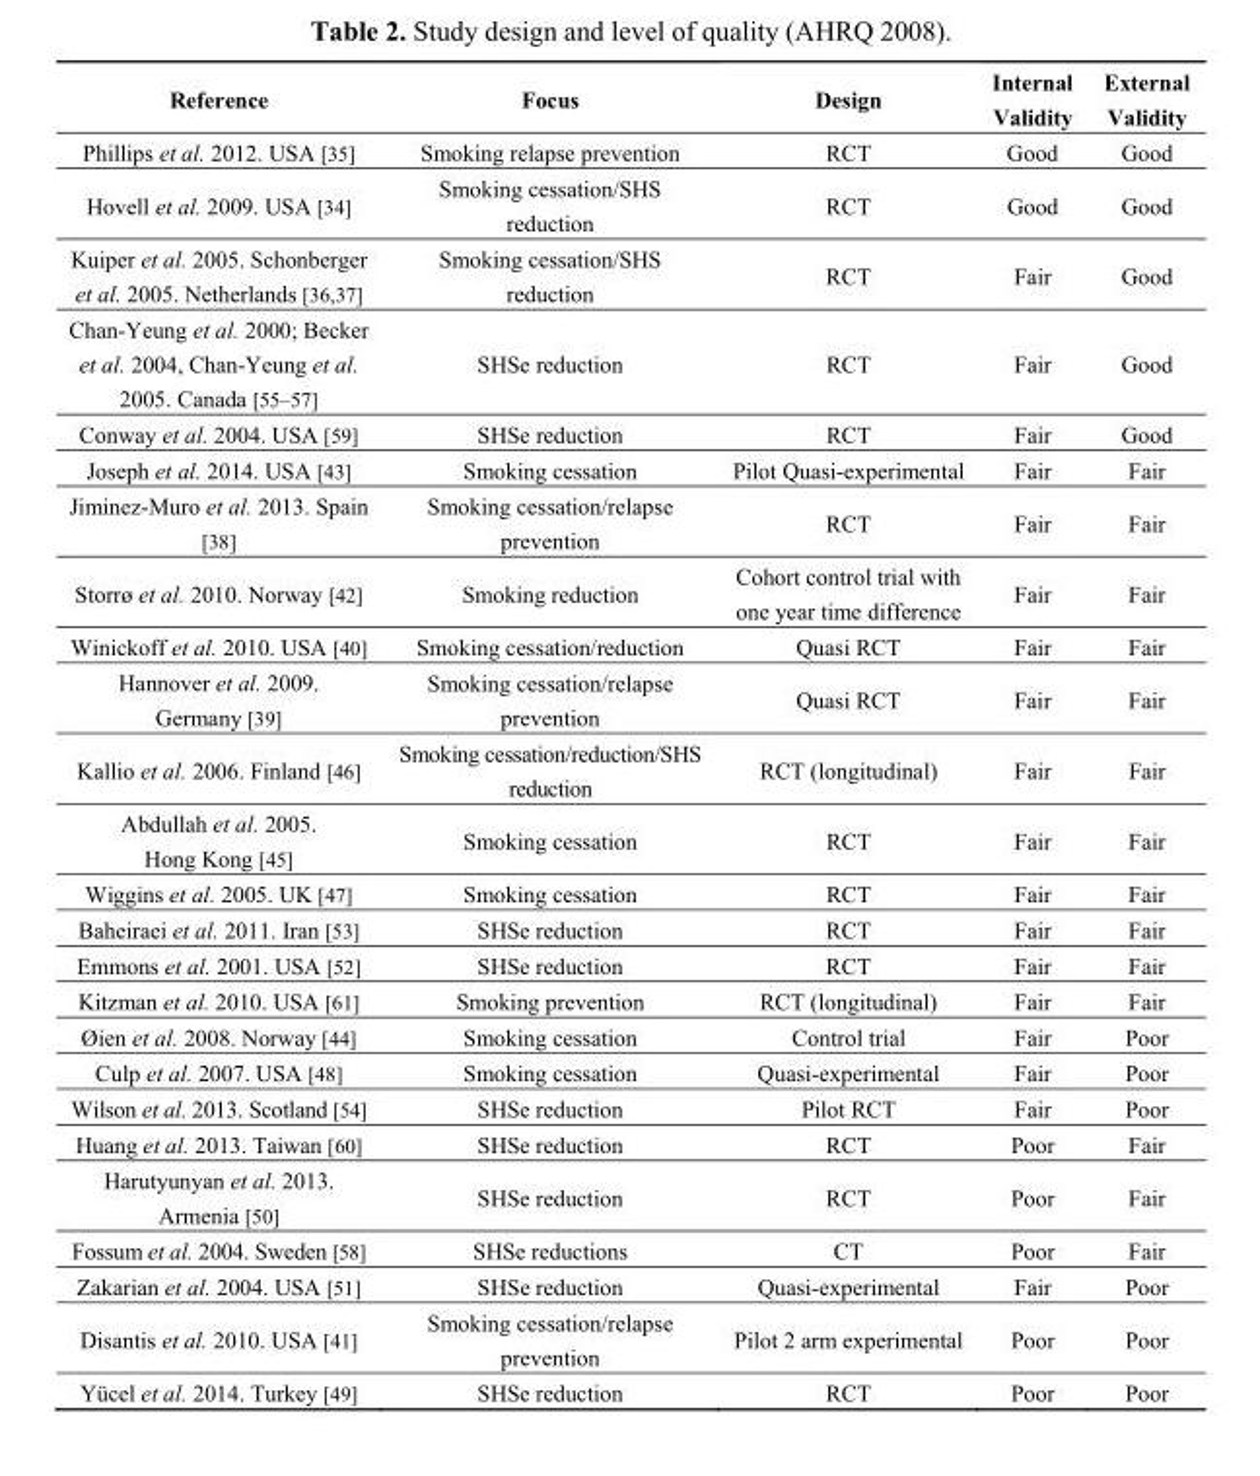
<table><thead><tr><td>Reference</td><td>Focus</td><td>Design</td><td>Internal Validity</td><td>External Validity</td></tr></thead><tbody><tr><td>Phillips et al. 2012. USA [35]</td><td>Smoking relapse prevention</td><td>RCT</td><td>Good</td><td>Good</td></tr><tr><td>Hovell et al. 2009. USA [34]</td><td>Smoking cessation/SHS reduction</td><td>RCT</td><td>Good</td><td>Good</td></tr><tr><td>Kuiper et al. 2005. Schonberger et al. 2005. Netherlands [36,37]</td><td>Smoking cessation/SHS reduction</td><td>RCT</td><td>Fair</td><td>Good</td></tr><tr><td>Chan-Yeung et al. 2000; Becker et al. 2004, Chan-Yeung et al. 2005. Canada [55–57]</td><td>SHSe reduction</td><td>RCT</td><td>Fair</td><td>Good</td></tr><tr><td>Conway et al. 2004. USA [59]</td><td>SHSe reduction</td><td>RCT</td><td>Fair</td><td>Good</td></tr><tr><td>Joseph et al. 2014. USA [43]</td><td>Smoking cessation</td><td>Pilot Quasi-experimental</td><td>Fair</td><td>Fair</td></tr><tr><td>Jiminez-Muro et al. 2013. Spain [38]</td><td>Smoking cessation/relapse prevention</td><td>RCT</td><td>Fair</td><td>Fair</td></tr><tr><td>Storrø et al. 2010. Norway [42]</td><td>Smoking reduction</td><td>Cohort control trial with one year time difference</td><td>Fair</td><td>Fair</td></tr><tr><td>Winickoff et al. 2010. USA [40]</td><td>Smoking cessation/reduction</td><td>Quasi RCT</td><td>Fair</td><td>Fair</td></tr><tr><td>Hannover et al. 2009. Germany [39]</td><td>Smoking cessation/relapse prevention</td><td>Quasi RCT</td><td>Fair</td><td>Fair</td></tr><tr><td>Kallio et al. 2006. Finland [46]</td><td>Smoking cessation/reduction/SHS reduction</td><td>RCT (longitudinal)</td><td>Fair</td><td>Fair</td></tr><tr><td>Abdullah et al. 2005. Hong Kong [45]</td><td>Smoking cessation</td><td>RCT</td><td>Fair</td><td>Fair</td></tr><tr><td>Wiggins et al. 2005. UK [47]</td><td>Smoking cessation</td><td>RCT</td><td>Fair</td><td>Fair</td></tr><tr><td>Baheiraei et al. 2011. Iran [53]</td><td>SHSe reduction</td><td>RCT</td><td>Fair</td><td>Fair</td></tr><tr><td>Emmons et al. 2001. USA [52]</td><td>SHSe reduction</td><td>RCT</td><td>Fair</td><td>Fair</td></tr><tr><td>Kitzman et al. 2010. USA [61]</td><td>Smoking prevention</td><td>RCT (longitudinal)</td><td>Fair</td><td>Fair</td></tr><tr><td>Øien et al. 2008. Norway [44]</td><td>Smoking cessation</td><td>Control trial</td><td>Fair</td><td>Poor</td></tr><tr><td>Culp et al. 2007. USA [48]</td><td>Smoking cessation</td><td>Quasi-experimental</td><td>Fair</td><td>Poor</td></tr><tr><td>Wilson et al. 2013. Scotland [54]</td><td>SHSe reduction</td><td>Pilot RCT</td><td>Fair</td><td>Poor</td></tr><tr><td>Huang et al. 2013. Taiwan [60]</td><td>SHSe reduction</td><td>RCT</td><td>Poor</td><td>Fair</td></tr><tr><td>Harutyunyan et al. 2013. Armenia [50]</td><td>SHSe reduction</td><td>RCT</td><td>Poor</td><td>Fair</td></tr><tr><td>Fossum et al. 2004. Sweden [58]</td><td>SHSe reductions</td><td>CT</td><td>Poor</td><td>Fair</td></tr><tr><td>Zakarian et al. 2004. USA [51]</td><td>SHSe reduction</td><td>Quasi-experimental</td><td>Fair</td><td>Poor</td></tr><tr><td>Disantis et al. 2010. USA [41]</td><td>Smoking cessation/relapse prevention</td><td>Pilot 2 arm experimental</td><td>Poor</td><td>Poor</td></tr><tr><td>Yücel et al. 2014. Turkey [49]</td><td>SHSe reduction</td><td>RCT</td><td>Poor</td><td>Poor</td></tr></tbody></table>